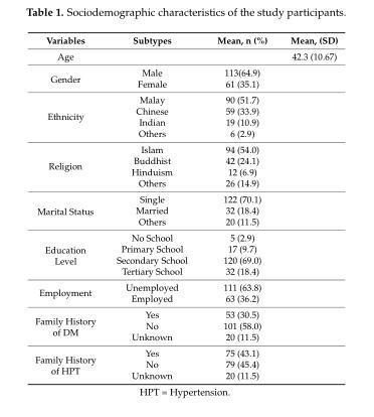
<table><thead><tr><td>Variables</td><td>Subtypes</td><td>Mean, n (%)</td><td>Mean, (SD)</td></tr></thead><tbody><tr><td>Age</td><td></td><td></td><td>42.3 (10.67)</td></tr><tr><td rowspan="2">Gender</td><td>Male</td><td>113(64.9)</td><td></td></tr><tr><td>Female</td><td>61 (35.1)</td><td></td></tr><tr><td rowspan="4">Ethnicity</td><td>Malay</td><td>90 (51.7)</td><td></td></tr><tr><td>Chinese</td><td>59 (33.9)</td><td></td></tr><tr><td>Indian</td><td>19 (10.9)</td><td></td></tr><tr><td>Others</td><td>6 (2.9)</td><td></td></tr><tr><td rowspan="4">Religion</td><td>Islam</td><td>94 (54.0)</td><td></td></tr><tr><td>Buddhist</td><td>42 (24.1)</td><td></td></tr><tr><td>Hinduism</td><td>12 (6.9)</td><td></td></tr><tr><td>Others</td><td>26 (14.9)</td><td></td></tr><tr><td rowspan="3">Marital Status</td><td>Single</td><td>122 (70.1)</td><td></td></tr><tr><td>Married</td><td>32 (18.4)</td><td></td></tr><tr><td>Others</td><td>20 (11.5)</td><td></td></tr><tr><td rowspan="4">Education Level</td><td>No School</td><td>5 (2.9)</td><td></td></tr><tr><td>Primary School</td><td>17 (9.7)</td><td></td></tr><tr><td>Secondary School</td><td>120 (69.0)</td><td></td></tr><tr><td>Tertiary School</td><td>32 (18.4)</td><td></td></tr><tr><td rowspan="2">Employment</td><td>Unemployed</td><td>111 (63.8)</td><td></td></tr><tr><td>Employed</td><td>63 (36.2)</td><td></td></tr><tr><td rowspan="3">Family History of DM</td><td>Yes</td><td>53 (30.5)</td><td></td></tr><tr><td>No</td><td>101 (58.0)</td><td></td></tr><tr><td>Unknown</td><td>20 (11.5)</td><td></td></tr><tr><td rowspan="3">Family History of HPT</td><td>Yes</td><td>75 (43.1)</td><td></td></tr><tr><td>No</td><td>79 (45.4)</td><td></td></tr><tr><td>Unknown</td><td>20 (11.5)</td><td></td></tr></tbody></table>